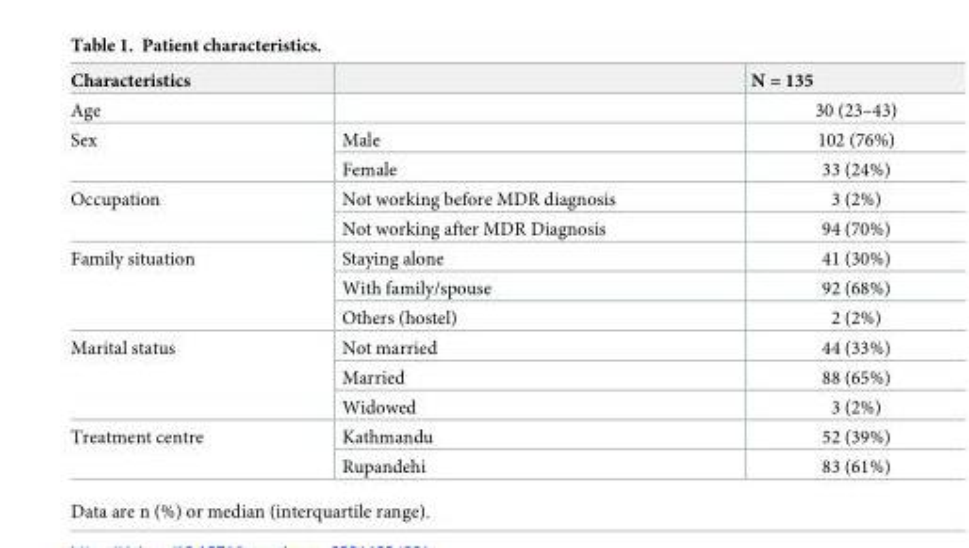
<table><thead><tr><td>Characteristics</td><td></td><td>N = 135</td></tr></thead><tbody><tr><td>Age</td><td></td><td>30 (23–43)</td></tr><tr><td rowspan="2">Sex</td><td>Male</td><td>102 (76%)</td></tr><tr><td>Female</td><td>33 (24%)</td></tr><tr><td rowspan="2">Occupation</td><td>Not working before MDR diagnosis</td><td>3 (2%)</td></tr><tr><td>Not working after MDR Diagnosis</td><td>94 (70%)</td></tr><tr><td rowspan="3">Family situation</td><td>Staying alone</td><td>41 (30%)</td></tr><tr><td>With family/spouse</td><td>92 (68%)</td></tr><tr><td>Others (hostel)</td><td>2 (2%)</td></tr><tr><td rowspan="3">Marital status</td><td>Not married</td><td>44 (33%)</td></tr><tr><td>Married</td><td>88 (65%)</td></tr><tr><td>Widowed</td><td>3 (2%)</td></tr><tr><td rowspan="2">Treatment centre</td><td>Kathmandu</td><td>52 (39%)</td></tr><tr><td>Rupandehi</td><td>83 (61%)</td></tr></tbody></table>